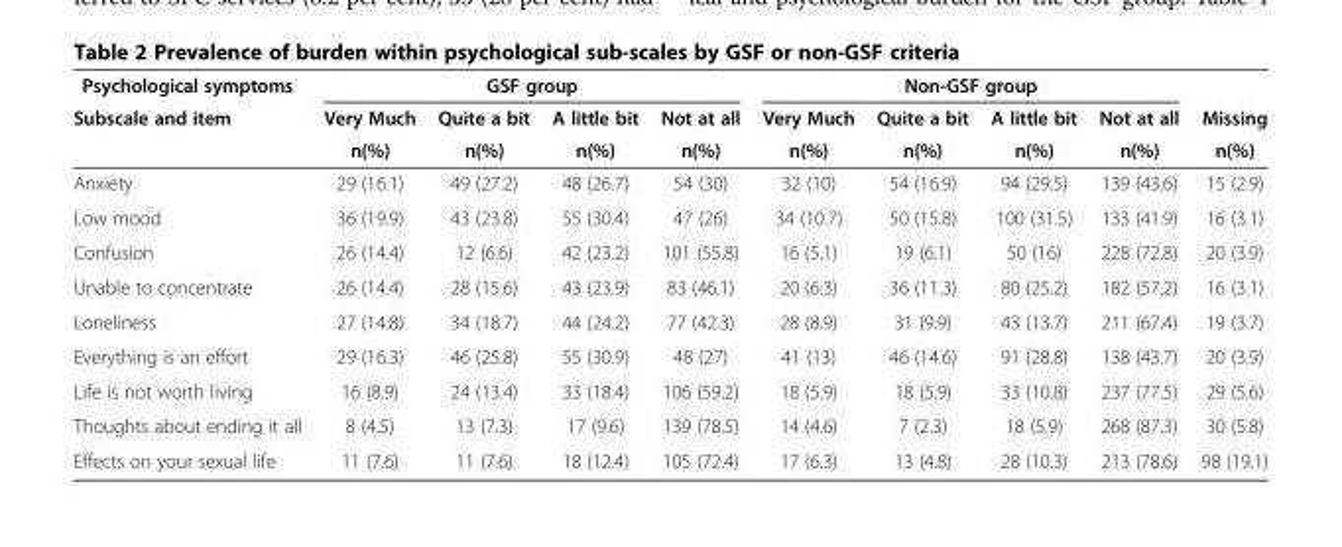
<table><thead><tr><td rowspan="3">Psychological symptoms Subscale and item</td><td colspan="4">GSF group</td><td colspan="4">Non-GSF group</td><td rowspan="3">Missing n(%)</td></tr><tr><td rowspan="2">Very Much n(%)</td><td rowspan="2">Quite a bit n(%)</td><td rowspan="2">A little bit n(%)</td><td rowspan="2">Not at all n(%)</td><td rowspan="2">Very Much n(%)</td><td rowspan="2">Quite a bit n(%)</td><td rowspan="2">A little bit n(%)</td><td rowspan="2">Not at all n(%)</td></tr><tr></tr></thead><tbody><tr><td>Anxiety</td><td>29 (16.1)</td><td>49 (27.2)</td><td>48 (26.7)</td><td>54 (30)</td><td>32 (10)</td><td>54 (16.9)</td><td>94 (29.5)</td><td>139 (43.6)</td><td>15 (2.9)</td></tr><tr><td>Low mood</td><td>36 (19.9)</td><td>43 (23.8)</td><td>55 (30.4)</td><td>47 (26)</td><td>34 (10.7)</td><td>50 (15.8)</td><td>100 (31.5)</td><td>133 (41.9)</td><td>16 (3.1)</td></tr><tr><td>Confusion</td><td>26 (14.4)</td><td>12 (6.6)</td><td>42 (23.2)</td><td>101 (55.8)</td><td>16 (5.1)</td><td>19 (6.1)</td><td>50 (16)</td><td>228 (72.8)</td><td>20 (3.9)</td></tr><tr><td>Unable to concentrate</td><td>26 (14.4)</td><td>28 (15.6)</td><td>43 (23.9)</td><td>83 (46.1)</td><td>20 (6.3)</td><td>36 (11.3)</td><td>80 (25.2)</td><td>182 (57.2)</td><td>16 (3.1)</td></tr><tr><td>Loneliness</td><td>27 (14.8)</td><td>34 (18.7)</td><td>44 (24.2)</td><td>77 (42.3)</td><td>28 (8.9)</td><td>31 (9.9)</td><td>43 (13.7)</td><td>211 (67.4)</td><td>19 (3.7)</td></tr><tr><td>Everything is an effort</td><td>29 (16.3)</td><td>46 (25.8)</td><td>55 (30.9)</td><td>48 (27)</td><td>41 (13)</td><td>46 (14.6)</td><td>91 (28.8)</td><td>138 (43.7)</td><td>20 (3.9)</td></tr><tr><td>Life is not worth living</td><td>16 (8.9)</td><td>24 (13.4)</td><td>33 (18.4)</td><td>106 (59.2)</td><td>18 (5.9)</td><td>18 (5.9)</td><td>33 (10.8)</td><td>237 (77.5)</td><td>29 (5.6)</td></tr><tr><td>Thoughts about ending it all</td><td>8 (4.5)</td><td>13 (7.3)</td><td>17 (9.6)</td><td>139 (78.5)</td><td>14 (4.6)</td><td>7 (2.3)</td><td>18 (5.9)</td><td>268 (87.3)</td><td>30 (5.8)</td></tr><tr><td>Effects on your sexual life</td><td>11 (7.6)</td><td>11 (7.6)</td><td>18 (12.4)</td><td>105 (72.4)</td><td>17 (6.3)</td><td>13 (4.8)</td><td>28 (10.3)</td><td>213 (78.6)</td><td>98 (19.1)</td></tr></tbody></table>